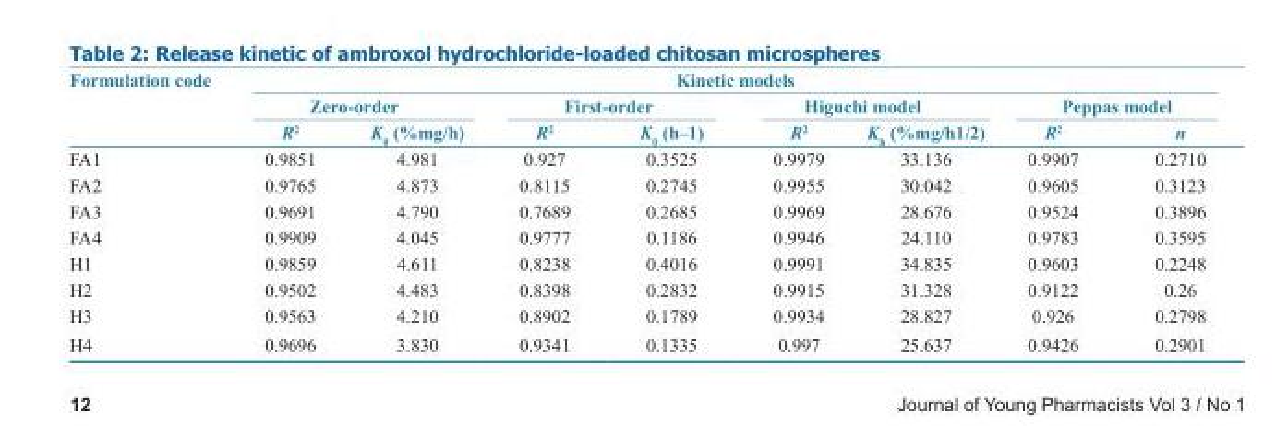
<table><thead><tr><td rowspan="3">Formulation code</td><td colspan="8">Kinetic models</td></tr><tr><td colspan="2">Zero-order</td><td colspan="2">First-order</td><td colspan="2">Higuchi model</td><td colspan="2">Peppas model</td></tr><tr><td>R<sup>2</sup></td><td>K<sub>0</sub> (%mg/h)</td><td>R<sup>2</sup></td><td>K<sub>0</sub> (h–1)</td><td>R<sup>2</sup></td><td>K<sup>h</sup> (%mg/h1/2)</td><td>R<sup>2</sup></td><td>n</td></tr></thead><tbody><tr><td>FA1</td><td>0.9851</td><td>4.981</td><td>0.927</td><td>0.3525</td><td>0.9979</td><td>33.136</td><td>0.9907</td><td>0.2710</td></tr><tr><td>FA2</td><td>0.9765</td><td>4.873</td><td>0.8115</td><td>0.2745</td><td>0.9955</td><td>30.042</td><td>0.9605</td><td>0.3123</td></tr><tr><td>FA3</td><td>0.9691</td><td>4.790</td><td>0.7689</td><td>0.2685</td><td>0.9969</td><td>28.676</td><td>0.9524</td><td>0.3896</td></tr><tr><td>FA4</td><td>0.9909</td><td>4.045</td><td>0.9777</td><td>0.1186</td><td>0.9946</td><td>24.110</td><td>0.9783</td><td>0.3595</td></tr><tr><td>H1</td><td>0.9859</td><td>4.611</td><td>0.8238</td><td>0.4016</td><td>0.9991</td><td>34.835</td><td>0.9603</td><td>0.2248</td></tr><tr><td>H2</td><td>0.9502</td><td>4.483</td><td>0.8398</td><td>0.2832</td><td>0.9915</td><td>31.328</td><td>0.9122</td><td>0.26</td></tr><tr><td>H3</td><td>0.9563</td><td>4.210</td><td>0.8902</td><td>0.1789</td><td>0.9934</td><td>28.827</td><td>0.926</td><td>0.2798</td></tr><tr><td>H4</td><td>0.9696</td><td>3.830</td><td>0.9341</td><td>0.1335</td><td>0.997</td><td>25.637</td><td>0.9426</td><td>0.2901</td></tr></tbody></table>